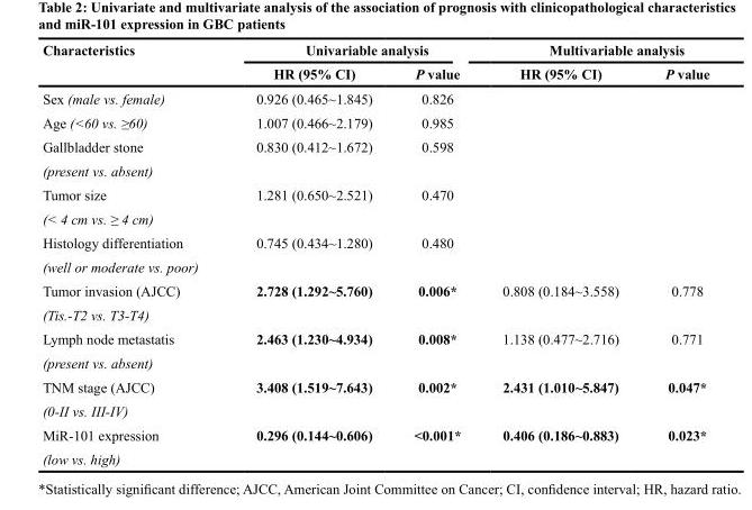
<table><thead><tr><td rowspan="2">Characteristics</td><td colspan="2">Univariable analysis</td><td colspan="2">Multivariable analysis</td></tr><tr><td>HR (95% CI)</td><td>P value</td><td>HR (95% CI)</td><td>P value</td></tr></thead><tbody><tr><td>Sex (male vs. female)</td><td>0.926 (0.465~1.845)</td><td>0.826</td><td></td><td></td></tr><tr><td>Age (&lt;60 vs. ≥60)</td><td>1.007 (0.466~2.179)</td><td>0.985</td><td></td><td></td></tr><tr><td>Gallbladder stone</td><td>0.830 (0.412~1.672)</td><td>0.598</td><td></td><td></td></tr><tr><td colspan="5">(present vs. absent)</td></tr><tr><td>Tumor size</td><td>1.281 (0.650~2.521)</td><td>0.470</td><td></td><td></td></tr><tr><td colspan="5">(&lt; 4 cm vs. ≥ 4 cm)</td></tr><tr><td>Histology differentiation</td><td>0.745 (0.434~1.280)</td><td>0.480</td><td></td><td></td></tr><tr><td colspan="5">(well or moderate vs. poor)</td></tr><tr><td>Tumor invasion (AJCC)</td><td>2.728 (1.292~5.760)</td><td>0.006*</td><td>0.808 (0.184~3.558)</td><td>0.778</td></tr><tr><td colspan="5">(Tis.-T2 vs. T3-T4)</td></tr><tr><td>Lymph node metastatis</td><td>2.463 (1.230~4.934)</td><td>0.008*</td><td>1.138 (0.477~2.716)</td><td>0.771</td></tr><tr><td colspan="5">(present vs. absent)</td></tr><tr><td>TNM stage (AJCC)</td><td>3.408 (1.519~7.643)</td><td>0.002*</td><td>2.431 (1.010~5.847)</td><td>0.047*</td></tr><tr><td colspan="5">(0-II vs. III-IV)</td></tr><tr><td>MiR-101 expression</td><td>0.296 (0.144~0.606)</td><td>&lt;0.001*</td><td>0.406 (0.186~0.883)</td><td>0.023*</td></tr><tr><td>(low vs. high)</td><td></td><td></td><td></td><td></td></tr></tbody></table>